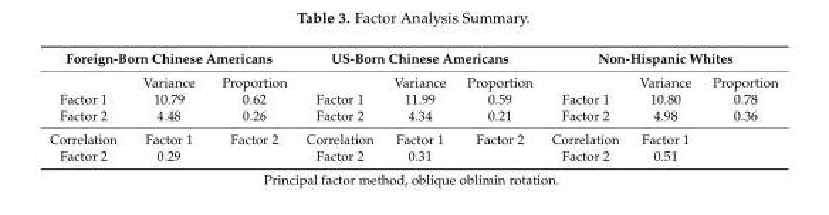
<table><thead><tr><td colspan="3">Foreign-Born Chinese Americans</td><td colspan="3">US-Born Chinese Americans</td><td colspan="3">Non-Hispanic Whites</td></tr><tr><td></td><td>Variance</td><td>Proportion</td><td></td><td>Variance</td><td>Proportion</td><td></td><td>Variance</td><td>Proportion</td></tr></thead><tbody><tr><td>Factor 1</td><td>10.79</td><td>0.62</td><td>Factor 1</td><td>11.99</td><td>0.59</td><td>Factor 1</td><td>10.80</td><td>0.78</td></tr><tr><td>Factor 2</td><td>4.48</td><td>0.26</td><td>Factor 2</td><td>4.34</td><td>0.21</td><td>Factor 2</td><td>4.98</td><td>0.36</td></tr><tr><td>Correlation</td><td>Factor 1</td><td>Factor 2</td><td>Correlation</td><td>Factor 1</td><td>Factor 2</td><td>Correlation</td><td>Factor 1</td><td></td></tr><tr><td>Factor 2</td><td>0.29</td><td></td><td>Factor 2</td><td>0.31</td><td></td><td>Factor 2</td><td>0.51</td><td></td></tr></tbody></table>